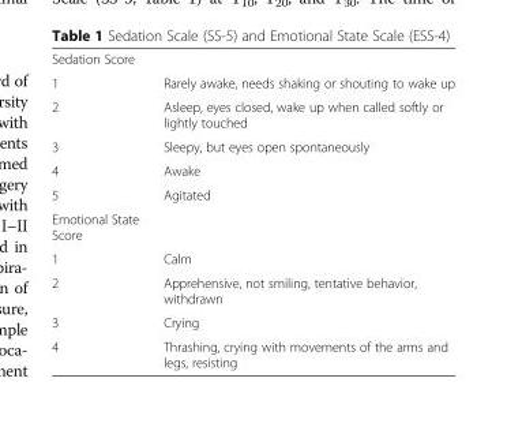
<table><tbody><tr><td colspan="2">Sedation Score</td></tr><tr><td>1</td><td>Rarely awake, needs shaking or shouting to wake up</td></tr><tr><td>2</td><td>Asleep, eyes closed, wake up when called softly or lightly touched</td></tr><tr><td>3</td><td>Sleepy, but eyes open spontaneously</td></tr><tr><td>4</td><td>Awake</td></tr><tr><td>5</td><td>Agitated</td></tr><tr><td colspan="2">Emotional State Score</td></tr><tr><td>1</td><td>Calm</td></tr><tr><td>2</td><td>Apprehensive, not smiling, tentative behavior, withdrawn</td></tr><tr><td>3</td><td>Crying</td></tr><tr><td>4</td><td>Thrashing, crying with movements of the arms and legs, resisting</td></tr></tbody></table>